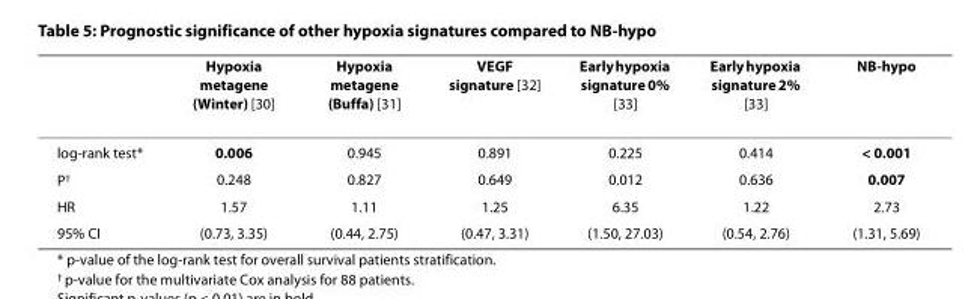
<table><thead><tr><td></td><td>Hypoxia metagene (Winter) [30]</td><td>Hypoxia metagene (Buffa) [31]</td><td>VEGF signature [32]</td><td>Early hypoxia signature 0% [33]</td><td>Early hypoxia signature 2% [33]</td><td>NB-hypo</td></tr></thead><tbody><tr><td>log-rank test*</td><td>0.006</td><td>0.945</td><td>0.891</td><td>0.225</td><td>0.414</td><td>&lt; 0.001</td></tr><tr><td>P<sup>†</sup></td><td>0.248</td><td>0.827</td><td>0.649</td><td>0.012</td><td>0.636</td><td>0.007</td></tr><tr><td>HR</td><td>1.57</td><td>1.11</td><td>1.25</td><td>6.35</td><td>1.22</td><td>2.73</td></tr><tr><td>95% CI</td><td>(0.73, 3.35)</td><td>(0.44, 2.75)</td><td>(0.47, 3.31)</td><td>(1.50, 27.03)</td><td>(0.54, 2.76)</td><td>(1.31, 5.69)</td></tr></tbody></table>